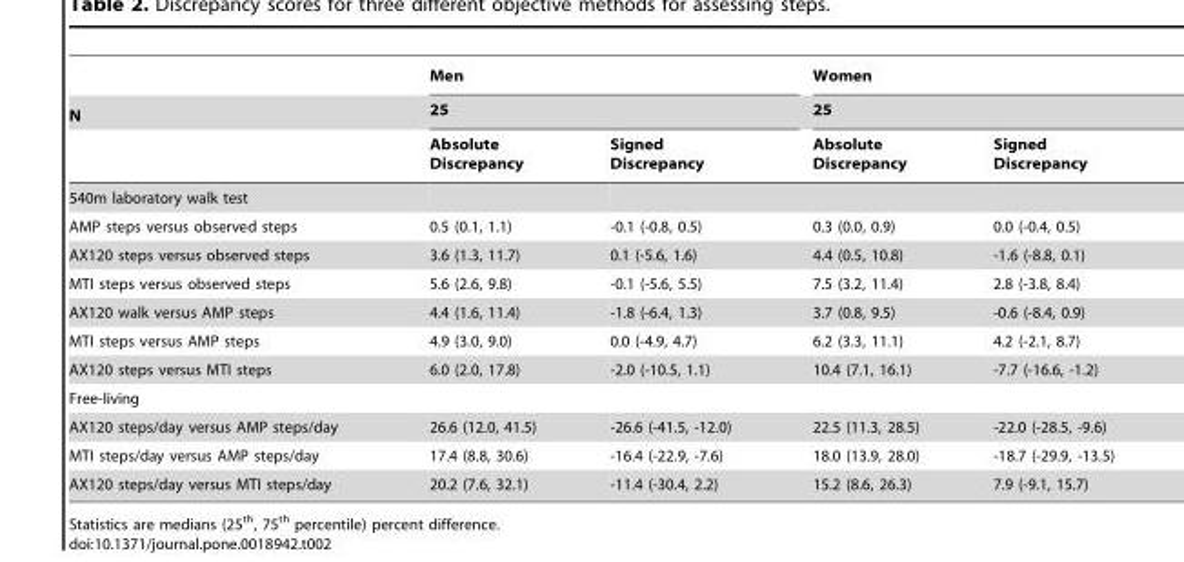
<table><thead><tr><td rowspan="3">N</td><td rowspan="2" colspan="2">Men 25</td><td rowspan="2" colspan="2">Women 25</td></tr><tr></tr><tr><td>Absolute Discrepancy</td><td>Signed Discrepancy</td><td>Absolute Discrepancy</td><td>Signed Discrepancy</td></tr></thead><tbody><tr><td colspan="5">540m laboratory walk test</td></tr><tr><td>AMP steps versus observed steps</td><td>0.5 (0.1, 1.1)</td><td>-0.1 (-0.8, 0.5)</td><td>0.3 (0.0, 0.9)</td><td>0.0 (-0.4, 0.5)</td></tr><tr><td>AX120 steps versus observed steps</td><td>3.6 (1.3, 11.7)</td><td>0.1 (-5.6, 1.6)</td><td>4.4 (0.5, 10.8)</td><td>-1.6 (-8.8, 0.1)</td></tr><tr><td>MTI steps versus observed steps</td><td>5.6 (2.6, 9.8)</td><td>-0.1 (-5.6, 5.5)</td><td>7.5 (3.2, 11.4)</td><td>2.8 (-3.8, 8.4)</td></tr><tr><td>AX120 walk versus AMP steps</td><td>4.4 (1.6, 11.4)</td><td>-1.8 (-6.4, 1.3)</td><td>3.7 (0.8, 9.5)</td><td>-0.6 (-8.4, 0.9)</td></tr><tr><td>MTI steps versus AMP steps</td><td>4.9 (3.0, 9.0)</td><td>0.0 (-4.9, 4.7)</td><td>6.2 (3.3, 11.1)</td><td>4.2 (-2.1, 8.7)</td></tr><tr><td>AX120 steps versus MTI steps</td><td>6.0 (2.0, 17.8)</td><td>-2.0 (-10.5, 1.1)</td><td>10.4 (7.1, 16.1)</td><td>-7.7 (-16.6, -1.2)</td></tr><tr><td colspan="5">Free-living</td></tr><tr><td>AX120 steps/day versus AMP steps/day</td><td>26.6 (12.0, 41.5)</td><td>-26.6 (-41.5, -12.0)</td><td>22.5 (11.3, 28.5)</td><td>-22.0 (-28.5, -9.6)</td></tr><tr><td>MTI steps/day versus AMP steps/day</td><td>17.4 (8.8, 30.6)</td><td>-16.4 (-22.9, -7.6)</td><td>18.0 (13.9, 28.0)</td><td>-18.7 (-29.9, -13.5)</td></tr><tr><td>AX120 steps/day versus MTI steps/day</td><td>20.2 (7.6, 32.1)</td><td>-11.4 (-30.4, 2.2)</td><td>15.2 (8.6, 26.3)</td><td>7.9 (-9.1, 15.7)</td></tr></tbody></table>